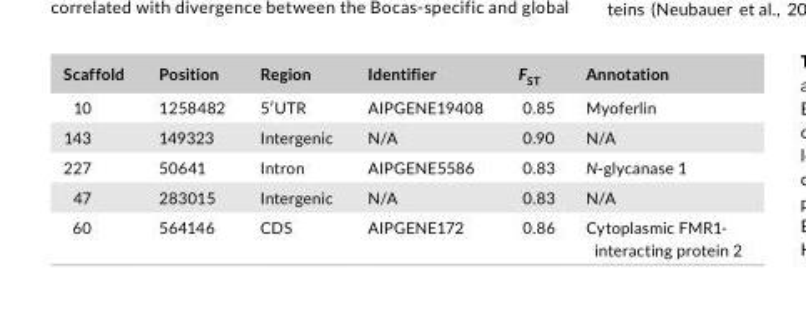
<table><thead><tr><td>Scaffold</td><td>Position</td><td>Region</td><td>Identifier</td><td>F<sub>ST</sub></td><td>Annotation</td></tr></thead><tbody><tr><td>10</td><td>1258482</td><td>5′UTR</td><td>AIPGENE19408</td><td>0.85</td><td>Myoferlin</td></tr><tr><td>143</td><td>149323</td><td>Intergenic</td><td>N/A</td><td>0.90</td><td>N/A</td></tr><tr><td>227</td><td>50641</td><td>Intron</td><td>AIPGENE5586</td><td>0.83</td><td>N- glycanase 1</td></tr><tr><td>47</td><td>283015</td><td>Intergenic</td><td>N/A</td><td>0.83</td><td>N/A</td></tr><tr><td>60</td><td>564146</td><td>CDS</td><td>AIPGENE172</td><td>0.86</td><td>Cytoplasmic FMR1- interacting protein 2</td></tr></tbody></table>